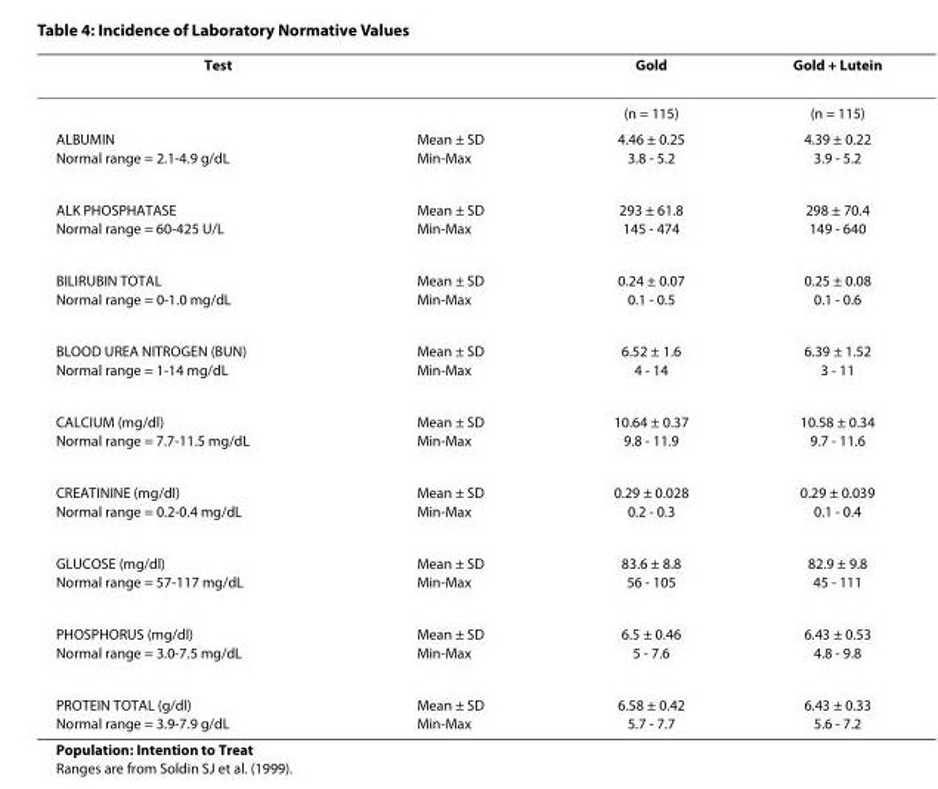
<table><thead><tr><td>Test</td><td></td><td>Gold</td><td>Gold + Lutein</td></tr></thead><tbody><tr><td></td><td></td><td>(n = 115)</td><td>(n = 115)</td></tr><tr><td>ALBUMIN Normal range = 2.1-4.9 g/dL</td><td>Mean ± SD Min-Max</td><td>4.46 ± 0.25 3.8 - 5.2</td><td>4.39 ± 0.22 3.9 - 5.2</td></tr><tr><td>ALK PHOSPHATASE Normal range = 60-425 U/L</td><td>Mean ± SD Min-Max</td><td>293 ± 61.8 145 - 474</td><td>298 ± 70.4 149 - 640</td></tr><tr><td>BILIRUBIN TOTAL Normal range = 0-1.0 mg/dL</td><td>Mean ± SD Min-Max</td><td>0.24 ± 0.07 0.1 - 0.5</td><td>0.25 ± 0.08 0.1 - 0.6</td></tr><tr><td>BLOOD UREA NITROGEN (BUN) Normal range = 1-14 mg/dL</td><td>Mean ± SD Min-Max</td><td>6.52 ± 1.6 4 - 14</td><td>6.39 ± 1.52 3 - 11</td></tr><tr><td>CALCIUM (mg/dl) Normal range = 7.7-11.5 mg/dL</td><td>Mean ± SD Min-Max</td><td>10.64 ± 0.37 9.8 - 11.9</td><td>10.58 ± 0.34 9.7 - 11.6</td></tr><tr><td>CREATININE (mg/dl) Normal range = 0.2-0.4 mg/dL</td><td>Mean ± SD Min-Max</td><td>0.29 ± 0.028 0.2 - 0.3</td><td>0.29 ± 0.039 0.1 - 0.4</td></tr><tr><td>GLUCOSE (mg/dl) Normal range = 57-117 mg/dL</td><td>Mean ± SD Min-Max</td><td>83.6 ± 8.8 56 - 105</td><td>82.9 ± 9.8 45 - 111</td></tr><tr><td>PHOSPHORUS (mg/dl) Normal range = 3.0-7.5 mg/dL</td><td>Mean ± SD Min-Max</td><td>6.5 ± 0.46 5 - 7.6</td><td>6.43 ± 0.53 4.8 - 9.8</td></tr><tr><td>PROTEIN TOTAL (g/dl) Normal range = 3.9-7.9 g/dL</td><td>Mean ± SD Min-Max</td><td>6.58 ± 0.42 5.7 - 7.7</td><td>6.43 ± 0.33 5.6 - 7.2</td></tr></tbody></table>